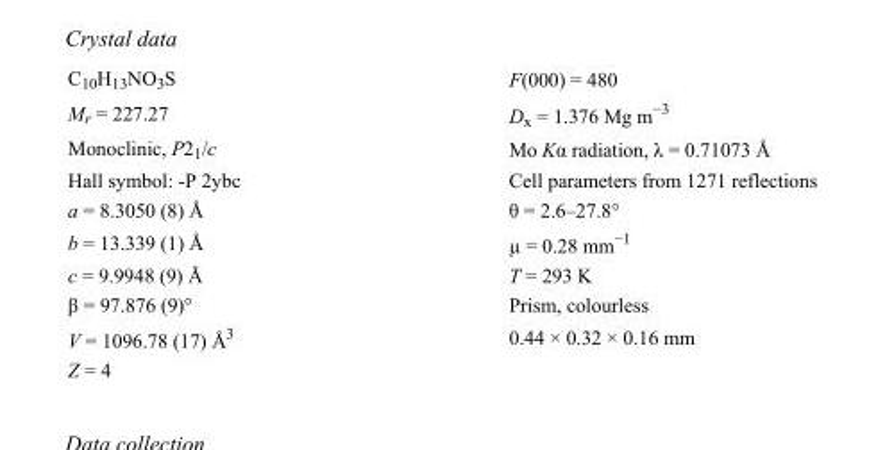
<table><tbody><tr><td>C<sub>10</sub>H<sub>13</sub>NO<sub>3</sub>S</td><td>F(000) = 480</td></tr><tr><td>M<sub>r</sub> = 227.27</td><td>D<sub>x</sub> = 1.376 Mg m<sup>−3</sup></td></tr><tr><td>Monoclinic, P2<sub>1</sub>/c</td><td>Mo Kα radiation, λ = 0.71073 Å</td></tr><tr><td>Hall symbol: -P 2ybc</td><td>Cell parameters from 1271 reflections</td></tr><tr><td>a = 8.3050 (8) Å</td><td>θ = 2.6–27.8°</td></tr><tr><td>b = 13.339 (1) Å</td><td>µ = 0.28 mm<sup>−1</sup></td></tr><tr><td>c = 9.9948 (9) Å</td><td>T = 293 K</td></tr><tr><td>β = 97.876 (9)°</td><td>Prism, colourless</td></tr><tr><td>V = 1096.78 (17) Å<sup>3</sup></td><td>0.44 × 0.32 × 0.16 mm</td></tr><tr><td>Z = 4</td><td></td></tr></tbody></table>